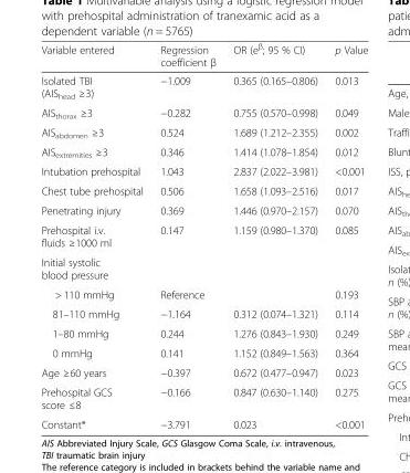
<table><thead><tr><td>Variable entered</td><td>Regression coefficient β</td><td>OR (e<sup>β</sup>; 95 % CI)</td><td>p Value</td></tr></thead><tbody><tr><td>Isolated TBI (AIS<sub>head</sub> ≥3)</td><td>−1.009</td><td>0.365 (0.165–0.806)</td><td>0.013</td></tr><tr><td>AIS<sub>thorax</sub> ≥3</td><td>−0.282</td><td>0.755 (0.570–0.998)</td><td>0.049</td></tr><tr><td>AIS<sub>abdomen</sub> ≥3</td><td>0.524</td><td>1.689 (1.212–2.355)</td><td>0.002</td></tr><tr><td>AIS<sub>extremities</sub> ≥3</td><td>0.346</td><td>1.414 (1.078–1.854)</td><td>0.012</td></tr><tr><td>Intubation prehospital</td><td>1.043</td><td>2.837 (2.022–3.981)</td><td>&lt;0.001</td></tr><tr><td>Chest tube prehospital</td><td>0.506</td><td>1.658 (1.093–2.516)</td><td>0.017</td></tr><tr><td>Penetrating injury</td><td>0.369</td><td>1.446 (0.970–2.157)</td><td>0.070</td></tr><tr><td>Prehospital i.v. fluids ≥1000 ml</td><td>0.147</td><td>1.159 (0.980–1.370)</td><td>0.085</td></tr><tr><td colspan="4">Initial systolic blood pressure</td></tr><tr><td>&gt; 110 mmHg</td><td>Reference</td><td></td><td>0.193</td></tr><tr><td>81–110 mmHg</td><td>−1.164</td><td>0.312 (0.074–1.321)</td><td>0.114</td></tr><tr><td>1–80 mmHg</td><td>0.244</td><td>1.276 (0.843–1.930)</td><td>0.249</td></tr><tr><td>0 mmHg</td><td>0.141</td><td>1.152 (0.849–1.563)</td><td>0.364</td></tr><tr><td>Age ≥60 years</td><td>−0.397</td><td>0.672 (0.477–0.947)</td><td>0.023</td></tr><tr><td>Prehospital GCS score ≤8</td><td>−0.166</td><td>0.847 (0.630–1.140)</td><td>0.275</td></tr><tr><td>Constant*</td><td>−3.791</td><td>0.023</td><td>&lt;0.001</td></tr></tbody></table>